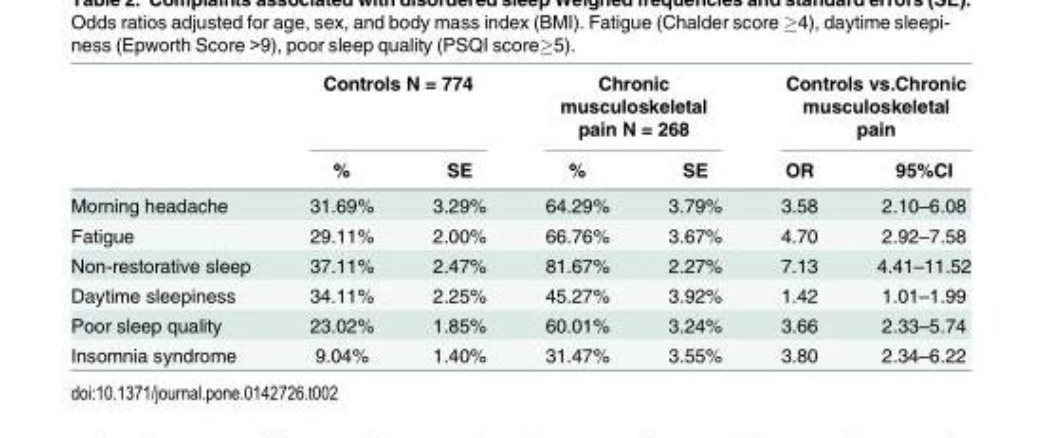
<table><thead><tr><td rowspan="2"></td><td colspan="2">Controls N = 774</td><td colspan="2">Chronic musculoskeletal pain N = 268</td><td colspan="2">Controls vs.Chronic musculoskeletal pain</td></tr><tr><td>%</td><td>SE</td><td>%</td><td>SE</td><td>OR</td><td>95%CI</td></tr></thead><tbody><tr><td>Morning headache</td><td>31.69%</td><td>3.29%</td><td>64.29%</td><td>3.79%</td><td>3.58</td><td>2.10–6.08</td></tr><tr><td>Fatigue</td><td>29.11%</td><td>2.00%</td><td>66.76%</td><td>3.67%</td><td>4.70</td><td>2.92–7.58</td></tr><tr><td>Non-restorative sleep</td><td>37.11%</td><td>2.47%</td><td>81.67%</td><td>2.27%</td><td>7.13</td><td>4.41–11.52</td></tr><tr><td>Daytime sleepiness</td><td>34.11%</td><td>2.25%</td><td>45.27%</td><td>3.92%</td><td>1.42</td><td>1.01–1.99</td></tr><tr><td>Poor sleep quality</td><td>23.02%</td><td>1.85%</td><td>60.01%</td><td>3.24%</td><td>3.66</td><td>2.33–5.74</td></tr><tr><td>Insomnia syndrome</td><td>9.04%</td><td>1.40%</td><td>31.47%</td><td>3.55%</td><td>3.80</td><td>2.34–6.22</td></tr></tbody></table>